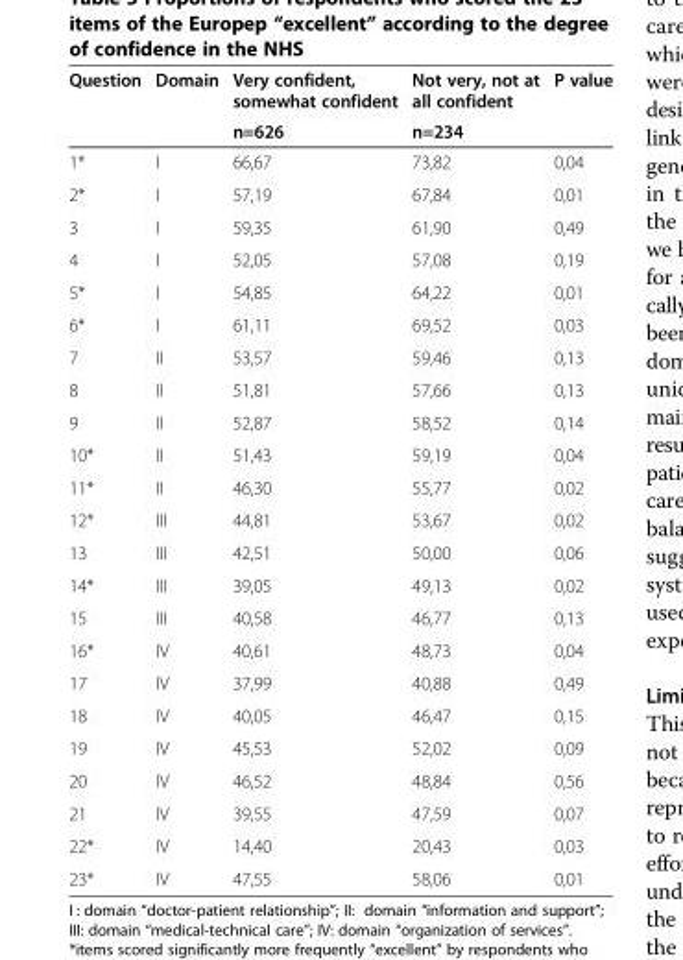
<table><thead><tr><td rowspan="2">Question</td><td rowspan="2">Domain</td><td rowspan="2">Very confident, somewhat confident n=626</td><td rowspan="2">Not very, not at all confident n=234</td><td rowspan="2">P value</td></tr><tr></tr></thead><tbody><tr><td>1*</td><td>I</td><td>66,67</td><td>73,82</td><td>0,04</td></tr><tr><td>2*</td><td>I</td><td>57,19</td><td>67,84</td><td>0,01</td></tr><tr><td>3</td><td>I</td><td>59,35</td><td>61,90</td><td>0,49</td></tr><tr><td>4</td><td>I</td><td>52,05</td><td>57,08</td><td>0,19</td></tr><tr><td>5*</td><td>I</td><td>54,85</td><td>64,22</td><td>0,01</td></tr><tr><td>6*</td><td>I</td><td>61,11</td><td>69,52</td><td>0,03</td></tr><tr><td>7</td><td>II</td><td>53,57</td><td>59,46</td><td>0,13</td></tr><tr><td>8</td><td>II</td><td>51,81</td><td>57,66</td><td>0,13</td></tr><tr><td>9</td><td>II</td><td>52,87</td><td>58,52</td><td>0,14</td></tr><tr><td>10*</td><td>II</td><td>51,43</td><td>59,19</td><td>0,04</td></tr><tr><td>11*</td><td>II</td><td>46,30</td><td>55,77</td><td>0,02</td></tr><tr><td>12*</td><td>III</td><td>44,81</td><td>53,67</td><td>0,02</td></tr><tr><td>13</td><td>III</td><td>42,51</td><td>50,00</td><td>0,06</td></tr><tr><td>14*</td><td>III</td><td>39,05</td><td>49,13</td><td>0,02</td></tr><tr><td>15</td><td>III</td><td>40,58</td><td>46,77</td><td>0,13</td></tr><tr><td>16*</td><td>IV</td><td>40,61</td><td>48,73</td><td>0,04</td></tr><tr><td>17</td><td>IV</td><td>37,99</td><td>40,88</td><td>0,49</td></tr><tr><td>18</td><td>IV</td><td>40,05</td><td>46,47</td><td>0,15</td></tr><tr><td>19</td><td>IV</td><td>45,53</td><td>52,02</td><td>0,09</td></tr><tr><td>20</td><td>IV</td><td>46,52</td><td>48,84</td><td>0,56</td></tr><tr><td>21</td><td>IV</td><td>39,55</td><td>47,59</td><td>0,07</td></tr><tr><td>22*</td><td>IV</td><td>14,40</td><td>20,43</td><td>0,03</td></tr><tr><td>23*</td><td>IV</td><td>47,55</td><td>58,06</td><td>0,01</td></tr></tbody></table>